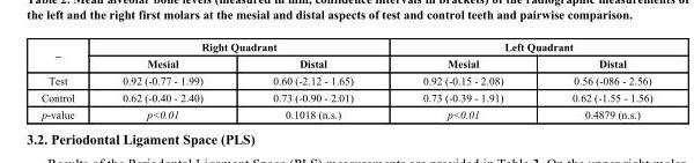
<table><thead><tr><td rowspan="2">–</td><td colspan="2">Right Quadrant</td><td colspan="2">Left Quadrant</td></tr><tr><td>Mesial</td><td>Distal</td><td>Mesial</td><td>Distal</td></tr></thead><tbody><tr><td>Test</td><td>0.92 (-0.77 - 1.99)</td><td>0.60 (-2.12 - 1.65)</td><td>0.92 (-0.15 - 2.08)</td><td>0.56 (-086 - 2.56)</td></tr><tr><td>Control</td><td>0.62 (-0.40 - 2.40)</td><td>0.73 (-0.90 - 2.01)</td><td>0.73 (-0.39 - 1.91)</td><td>0.62 (-1.55 - 1.56)</td></tr><tr><td>p-value</td><td>p&lt;0.01</td><td>0.1018 (n.s.)</td><td>p&lt;0.01</td><td>0.4879 (n.s.)</td></tr></tbody></table>